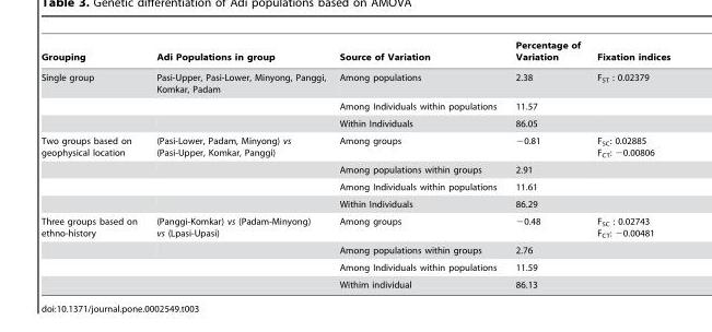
<table><thead><tr><td>Grouping</td><td>Adi Populations in group</td><td>Source of Variation</td><td>Percentage of Variation</td><td>Fixation indices</td></tr></thead><tbody><tr><td rowspan="3">Single group</td><td>Pasi-Upper, Pasi-Lower, Minyong, Panggi, Komkar, Padam</td><td>Among populations</td><td>2.38</td><td>F<sub>ST</sub> : 0.02379</td></tr><tr><td></td><td>Among Individuals within populations</td><td>11.57</td><td></td></tr><tr><td></td><td>Within Individuals</td><td>86.05</td><td></td></tr><tr><td rowspan="4">Two groups based on geophysical location</td><td>(Pasi-Lower, Padam, Minyong) vs (Pasi-Upper, Komkar, Panggi)</td><td>Among groups</td><td>−0.81</td><td>F<sub>SC</sub>: 0.02885 F<sub>CT</sub>: −0.00806</td></tr><tr><td></td><td>Among populations within groups</td><td>2.91</td><td></td></tr><tr><td></td><td>Among Individuals within populations</td><td>11.61</td><td></td></tr><tr><td></td><td>Within Individuals</td><td>86.29</td><td></td></tr><tr><td rowspan="4">Three groups based on ethno-history</td><td>(Panggi-Komkar) vs (Padam-Minyong) vs (Lpasi-Upasi)</td><td>Among groups</td><td>−0.48</td><td>F<sub>SC</sub> : 0.02743 F<sub>CT</sub>: −0.00481</td></tr><tr><td></td><td>Among populations within groups</td><td>2.76</td><td></td></tr><tr><td></td><td>Among Individuals within populations</td><td>11.59</td><td></td></tr><tr><td></td><td>Withim individual</td><td>86.13</td><td></td></tr></tbody></table>